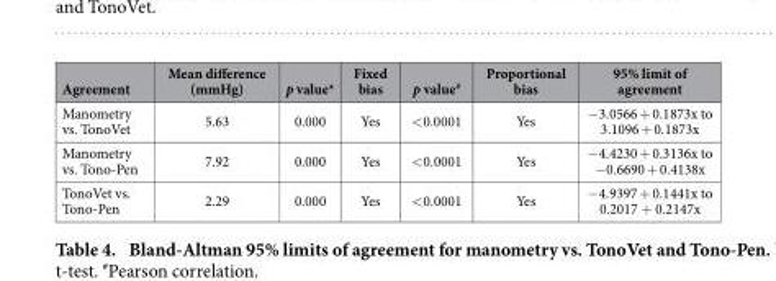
<table><thead><tr><td>Agreement</td><td>Mean difference (mmHg)</td><td>p value*</td><td>Fixed bias</td><td>p value#</td><td>Proportional bias</td><td>95% limit of agreement</td></tr></thead><tbody><tr><td>Manometry vs. TonoVet</td><td>5.63</td><td>0.000</td><td>Yes</td><td>&lt; 0.0001</td><td>Yes</td><td>− 3.0566 + 0.1873x to 3.1096 + 0.1873x</td></tr><tr><td>Manometry vs. Tono-Pen</td><td>7.92</td><td>0.000</td><td>Yes</td><td>&lt; 0.0001</td><td>Yes</td><td>− 4.4230 + 0.3136x to − 0.6690 + 0.4138x</td></tr><tr><td>TonoVet vs. Tono-Pen</td><td>2.29</td><td>0.000</td><td>Yes</td><td>&lt; 0.0001</td><td>Yes</td><td>− 4.9397 + 0.1441x to 0.2017 + 0.2147x</td></tr></tbody></table>